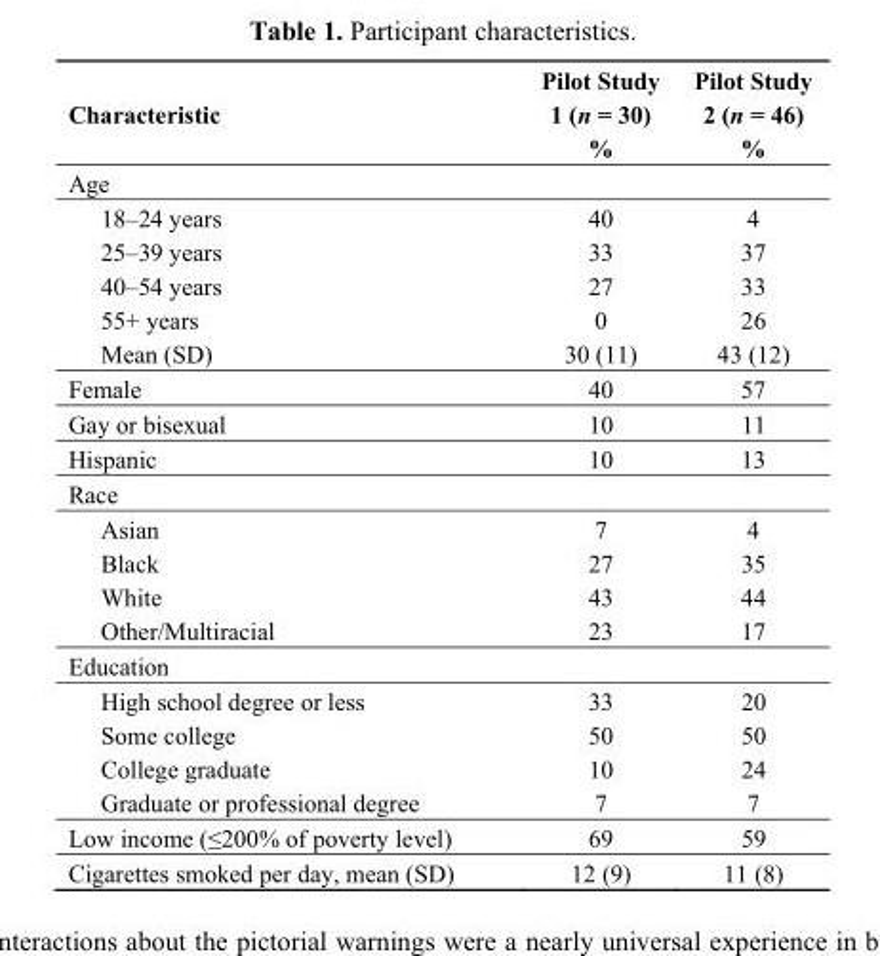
<table><thead><tr><td>Characteristic</td><td>Pilot Study 1 (n = 30) %</td><td>Pilot Study 2 (n = 46) %</td></tr></thead><tbody><tr><td colspan="3">Age</td></tr><tr><td>18–24 years</td><td>40</td><td>4</td></tr><tr><td>25–39 years</td><td>33</td><td>37</td></tr><tr><td>40–54 years</td><td>27</td><td>33</td></tr><tr><td>55+ years</td><td>0</td><td>26</td></tr><tr><td>Mean (SD)</td><td>30 (11)</td><td>43 (12)</td></tr><tr><td>Female</td><td>40</td><td>57</td></tr><tr><td>Gay or bisexual</td><td>10</td><td>11</td></tr><tr><td>Hispanic</td><td>10</td><td>13</td></tr><tr><td colspan="3">Race</td></tr><tr><td>Asian</td><td>7</td><td>4</td></tr><tr><td>Black</td><td>27</td><td>35</td></tr><tr><td>White</td><td>43</td><td>44</td></tr><tr><td>Other/Multiracial</td><td>23</td><td>17</td></tr><tr><td colspan="3">Education</td></tr><tr><td>High school degree or less</td><td>33</td><td>20</td></tr><tr><td>Some college</td><td>50</td><td>50</td></tr><tr><td>College graduate</td><td>10</td><td>24</td></tr><tr><td>Graduate or professional degree</td><td>7</td><td>7</td></tr><tr><td>Low income (≤200% of poverty level)</td><td>69</td><td>59</td></tr><tr><td>Cigarettes smoked per day, mean (SD)</td><td>12 (9)</td><td>11 (8)</td></tr></tbody></table>